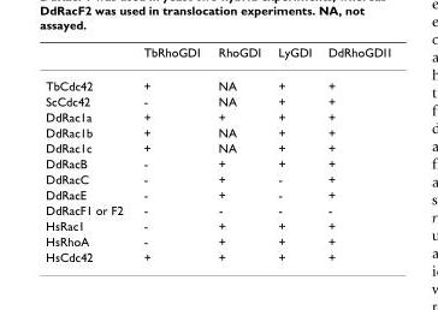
<table><thead><tr><td></td><td>TbRhoGDI</td><td>RhoGDI</td><td>LyGDI</td><td>DdRhoGDI1</td></tr></thead><tbody><tr><td>TbCdc42</td><td>+</td><td>NA</td><td>+</td><td>+</td></tr><tr><td>ScCdc42</td><td>-</td><td>NA</td><td>+</td><td>+</td></tr><tr><td>DdRac1a</td><td>+</td><td>+</td><td>+</td><td>+</td></tr><tr><td>DdRac1b</td><td>+</td><td>NA</td><td>+</td><td>+</td></tr><tr><td>DdRac1c</td><td>+</td><td>NA</td><td>+</td><td>+</td></tr><tr><td>DdRacB</td><td>-</td><td>+</td><td>+</td><td>+</td></tr><tr><td>DdRacC</td><td>-</td><td>+</td><td>-</td><td>+</td></tr><tr><td>DdRacE</td><td>-</td><td>+</td><td>-</td><td>+</td></tr><tr><td>DdRacF1 or F2</td><td>-</td><td>-</td><td>-</td><td>-</td></tr><tr><td>HsRac1</td><td>-</td><td>+</td><td>+</td><td>+</td></tr><tr><td>HsRhoA</td><td>-</td><td>+</td><td>+</td><td>+</td></tr><tr><td>HsCdc42</td><td>+</td><td>+</td><td>+</td><td>+</td></tr></tbody></table>